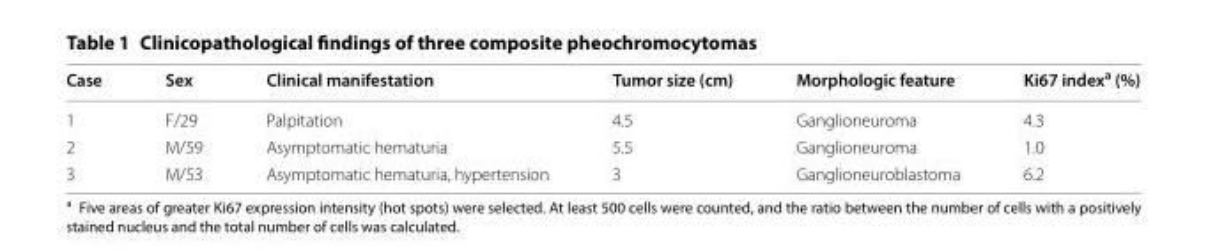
<table><thead><tr><td>Case</td><td>Sex</td><td>Clinical manifestation</td><td>Tumor size (cm)</td><td>Morphologic feature</td><td>Ki67 index<sup>a</sup> (%)</td></tr></thead><tbody><tr><td>1</td><td>F/29</td><td>Palpitation</td><td>4.5</td><td>Ganglioneuroma</td><td>4.3</td></tr><tr><td>2</td><td>M/59</td><td>Asymptomatic hematuria</td><td>5.5</td><td>Ganglioneuroma</td><td>1.0</td></tr><tr><td>3</td><td>M/53</td><td>Asymptomatic hematuria, hypertension</td><td>3</td><td>Ganglioneuroblastoma</td><td>6.2</td></tr></tbody></table>